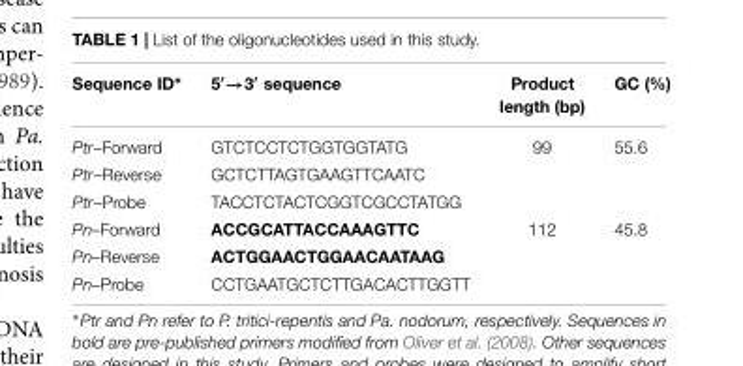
<table><thead><tr><td>Sequence ID∗</td><td>5′→3′ sequence</td><td>Product length (bp)</td><td>GC (%)</td></tr></thead><tbody><tr><td>Ptr–Forward</td><td>GTCTCCTCTGGTGGTATG</td><td>99</td><td>55.6</td></tr><tr><td>Ptr–Reverse</td><td>GCTCTTAGTGAAGTTCAATC</td><td></td><td></td></tr><tr><td>Ptr–Probe</td><td>TACCTCTACTCGGTCGCCTATGG</td><td></td><td></td></tr><tr><td>Pn–Forward</td><td>ACCGCATTACCAAAGTTC</td><td>112</td><td>45.8</td></tr><tr><td>Pn–Reverse</td><td>ACTGGAACTGGAACAATAAG</td><td></td><td></td></tr><tr><td>Pn–Probe</td><td>CCTGAATGCTCTTGACACTTGGTT</td><td></td><td></td></tr></tbody></table>